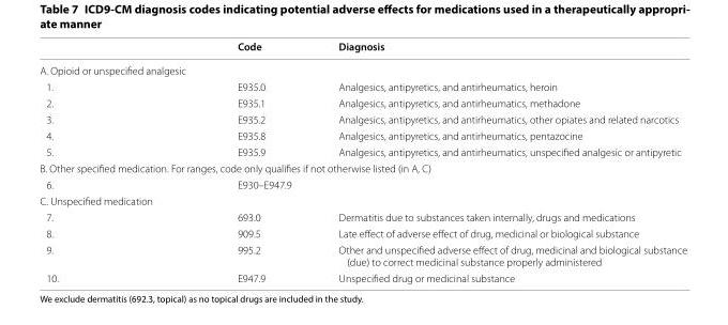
<table><thead><tr><td></td><td>Code</td><td>Diagnosis</td></tr></thead><tbody><tr><td colspan="3">A. Opioid or unspecified analgesic</td></tr><tr><td>1.</td><td>E935.0</td><td>Analgesics, antipyretics, and antirheumatics, heroin</td></tr><tr><td>2.</td><td>E935.1</td><td>Analgesics, antipyretics, and antirheumatics, methadone</td></tr><tr><td>3.</td><td>E935.2</td><td>Analgesics, antipyretics, and antirheumatics, other opiates and related narcotics</td></tr><tr><td>4.</td><td>E935.8</td><td>Analgesics, antipyretics, and antirheumatics, pentazocine</td></tr><tr><td>5.</td><td>E935.9</td><td>Analgesics, antipyretics, and antirheumatics, unspecified analgesic or antipyretic</td></tr><tr><td colspan="3">B. Other specified medication. For ranges, code only qualifies if not otherwise listed (in A, C)</td></tr><tr><td>6.</td><td colspan="2">E930–E947.9</td></tr><tr><td colspan="3">C. Unspecified medication</td></tr><tr><td>7.</td><td>693.0</td><td>Dermatitis due to substances taken internally, drugs and medications</td></tr><tr><td>8.</td><td>909.5</td><td>Late effect of adverse effect of drug, medicinal or biological substance</td></tr><tr><td>9.</td><td>995.2</td><td>Other and unspecified adverse effect of drug, medicinal and biological substance (due) to correct medicinal substance properly administered</td></tr><tr><td>10.</td><td>E947.9</td><td>Unspecified drug or medicinal substance</td></tr></tbody></table>